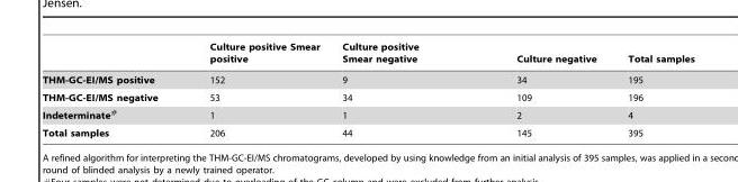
<table><thead><tr><td></td><td>Culture positive Smear positive</td><td>Culture positive Smear negative</td><td>Culture negative</td><td>Total samples</td></tr></thead><tbody><tr><td>THM-GC-EI/MS positive</td><td>152</td><td>9</td><td>34</td><td>195</td></tr><tr><td>THM-GC-EI/MS negative</td><td>53</td><td>34</td><td>109</td><td>196</td></tr><tr><td>Indeterminate#</td><td>1</td><td>1</td><td>2</td><td>4</td></tr><tr><td>Total samples</td><td>206</td><td>44</td><td>145</td><td>395</td></tr></tbody></table>